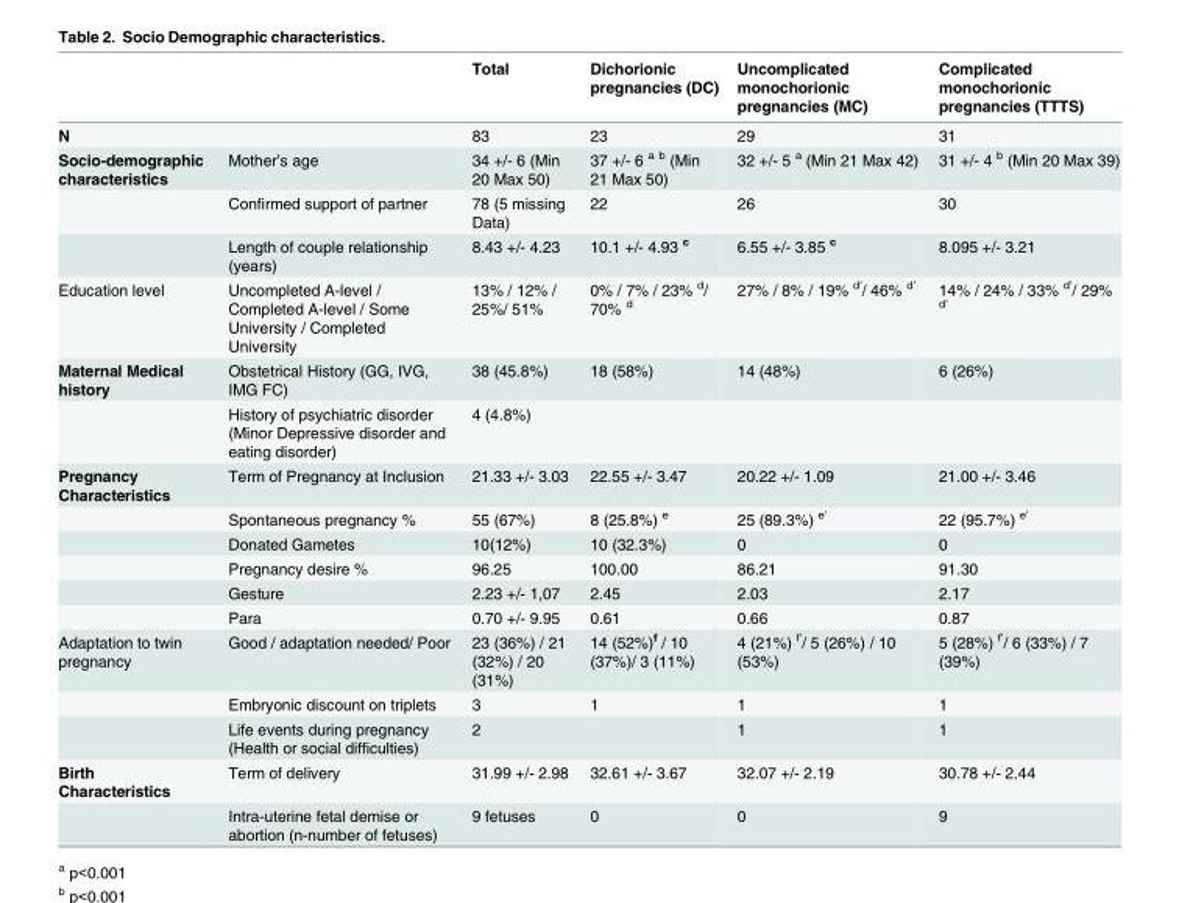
<table><thead><tr><td></td><td></td><td>Total</td><td>Dichorionic pregnancies (DC)</td><td>Uncomplicated monochorionic pregnancies (MC)</td><td>Complicated monochorionic pregnancies (TTTS)</td></tr></thead><tbody><tr><td>N</td><td></td><td>83</td><td>23</td><td>29</td><td>31</td></tr><tr><td rowspan="3">Socio-demographic characteristics</td><td>Mother’s age</td><td>34 +/- 6 (Min 20 Max 50)</td><td>37 +/- 6 <sup>a b</sup> (Min 21 Max 50)</td><td>32 +/- 5 <sup>a</sup> (Min 21 Max 42)</td><td>31 +/- 4 <sup>b</sup> (Min 20 Max 39)</td></tr><tr><td>Confirmed support of partner</td><td>78 (5 missing Data)</td><td>22</td><td>26</td><td>30</td></tr><tr><td>Length of couple relationship (years)</td><td>8.43 +/- 4.23</td><td>10.1 +/- 4.93 <sup>c</sup></td><td>6.55 +/- 3.85 <sup>c</sup></td><td>8.095 +/- 3.21</td></tr><tr><td>Education level</td><td>Uncompleted A-level / Completed A-level / Some University / Completed University</td><td>13% / 12% / 25%/ 51%</td><td>0% / 7% / 23% <sup>d</sup>/ 70% <sup>d</sup></td><td>27% / 8% / 19% <sup>d’</sup>/ 46% <sup>d’</sup></td><td>14% / 24% / 33% <sup>d’</sup>/ 29% <sup>d’</sup></td></tr><tr><td rowspan="2">Maternal Medical history</td><td>Obstetrical History (GG, IVG, IMG FC)</td><td>38 (45.8%)</td><td>18 (58%)</td><td>14 (48%)</td><td>6 (26%)</td></tr><tr><td>History of psychiatric disorder (Minor Depressive disorder and eating disorder)</td><td>4 (4.8%)</td><td></td><td></td><td></td></tr><tr><td rowspan="6">Pregnancy Characteristics</td><td>Term of Pregnancy at Inclusion</td><td>21.33 +/- 3.03</td><td>22.55 +/- 3.47</td><td>20.22 +/- 1.09</td><td>21.00 +/- 3.46</td></tr><tr><td>Spontaneous pregnancy %</td><td>55 (67%)</td><td>8 (25.8%) <sup>e</sup></td><td>25 (89.3%) <sup>e’</sup></td><td>22 (95.7%) <sup>e’</sup></td></tr><tr><td>Donated Gametes</td><td>10(12%)</td><td>10 (32.3%)</td><td>0</td><td>0</td></tr><tr><td>Pregnancy desire %</td><td>96.25</td><td>100.00</td><td>86.21</td><td>91.30</td></tr><tr><td>Gesture</td><td>2.23 +/- 1,07</td><td>2.45</td><td>2.03</td><td>2.17</td></tr><tr><td>Para</td><td>0.70 +/- 9.95</td><td>0.61</td><td>0.66</td><td>0.87</td></tr><tr><td rowspan="3">Adaptation to twin pregnancy</td><td>Good / adaptation needed/ Poor</td><td>23 (36%) / 21 (32%) / 20 (31%)</td><td>14 (52%)<sup>f</sup> / 10 (37%)/ 3 (11%)</td><td>4 (21%) <sup>f’</sup>/ 5 (26%) / 10 (53%)</td><td>5 (28%) <sup>f’</sup>/ 6 (33%) / 7 (39%)</td></tr><tr><td>Embryonic discount on triplets</td><td>3</td><td>1</td><td>1</td><td>1</td></tr><tr><td>Life events during pregnancy (Health or social difficulties)</td><td>2</td><td></td><td>1</td><td>1</td></tr><tr><td rowspan="2">Birth Characteristics</td><td>Term of delivery</td><td>31.99 +/- 2.98</td><td>32.61 +/- 3.67</td><td>32.07 +/- 2.19</td><td>30.78 +/- 2.44</td></tr><tr><td>Intra-uterine fetal demise or abortion (n-number of fetuses)</td><td>9 fetuses</td><td>0</td><td>0</td><td>9</td></tr></tbody></table>